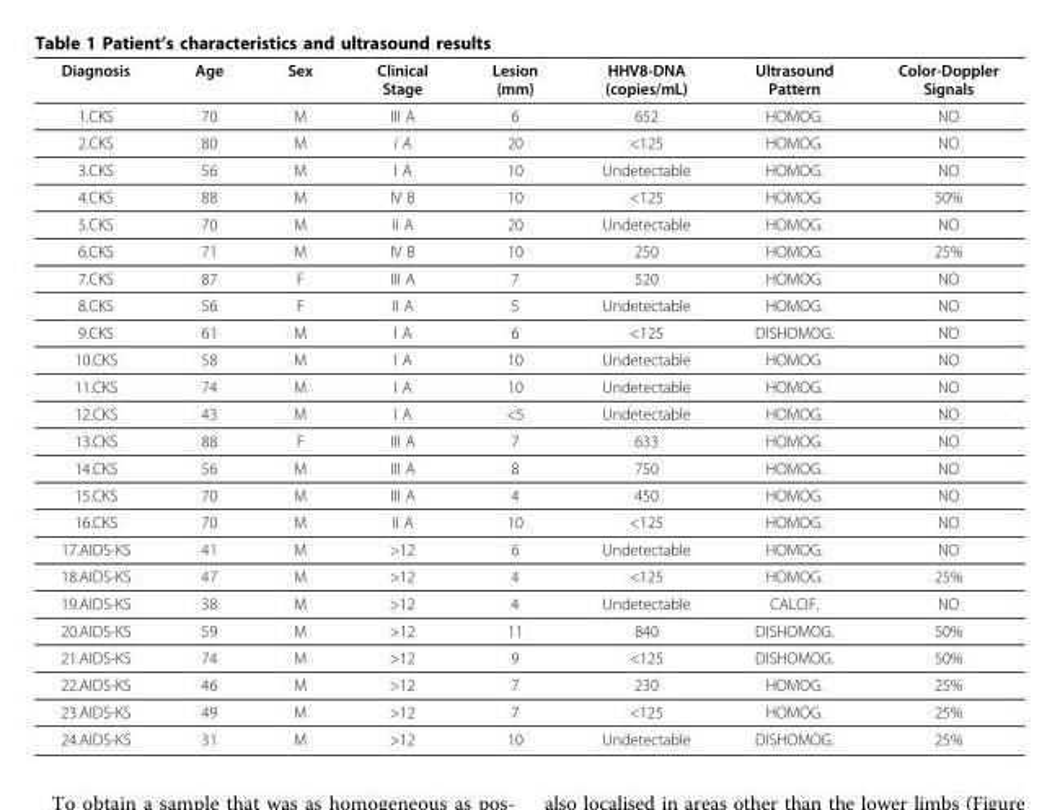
<table><thead><tr><td>Diagnosis</td><td>Age</td><td>Sex</td><td>Clinical Stage</td><td>Lesion (mm)</td><td>HHV8-DNA (copies/mL)</td><td>Ultrasound Pattern</td><td>Color-Doppler Signals</td></tr></thead><tbody><tr><td>1.CKS</td><td>70</td><td>M</td><td>III A</td><td>6</td><td>652</td><td>HOMOG.</td><td>NO</td></tr><tr><td>2.CKS</td><td>80</td><td>M</td><td>I A</td><td>20</td><td>&lt;125</td><td>HOMOG.</td><td>NO</td></tr><tr><td>3.CKS</td><td>56</td><td>M</td><td>I A</td><td>10</td><td>Undetectable</td><td>HOMOG.</td><td>NO</td></tr><tr><td>4.CKS</td><td>88</td><td>M</td><td>IV B</td><td>10</td><td>&lt;125</td><td>HOMOG.</td><td>50%</td></tr><tr><td>5.CKS</td><td>70</td><td>M</td><td>II A</td><td>20</td><td>Undetectable</td><td>HOMOG.</td><td>NO</td></tr><tr><td>6.CKS</td><td>71</td><td>M</td><td>IV B</td><td>10</td><td>250</td><td>HOMOG.</td><td>25%</td></tr><tr><td>7.CKS</td><td>87</td><td>F</td><td>III A</td><td>7</td><td>520</td><td>HOMOG.</td><td>NO</td></tr><tr><td>8.CKS</td><td>56</td><td>F</td><td>II A</td><td>5</td><td>Undetectable</td><td>HOMOG.</td><td>NO</td></tr><tr><td>9.CKS</td><td>61</td><td>M</td><td>I A</td><td>6</td><td>&lt;125</td><td>DISHOMOG.</td><td>NO</td></tr><tr><td>10.CKS</td><td>58</td><td>M</td><td>I A</td><td>10</td><td>Undetectable</td><td>HOMOG.</td><td>NO</td></tr><tr><td>11.CKS</td><td>74</td><td>M</td><td>I A</td><td>10</td><td>Undetectable</td><td>HOMOG.</td><td>NO</td></tr><tr><td>12.CKS</td><td>43</td><td>M</td><td>I A</td><td>&lt;5</td><td>Undetectable</td><td>HOMOG.</td><td>NO</td></tr><tr><td>13.CKS</td><td>88</td><td>F</td><td>III A</td><td>7</td><td>633</td><td>HOMOG.</td><td>NO</td></tr><tr><td>14.CKS</td><td>56</td><td>M</td><td>III A</td><td>8</td><td>750</td><td>HOMOG.</td><td>NO</td></tr><tr><td>15.CKS</td><td>70</td><td>M</td><td>III A</td><td>4</td><td>450</td><td>HOMOG.</td><td>NO</td></tr><tr><td>16.CKS</td><td>70</td><td>M</td><td>II A</td><td>10</td><td>&lt;125</td><td>HOMOG.</td><td>NO</td></tr><tr><td>17.AIDS-KS</td><td>41</td><td>M</td><td>&gt;12</td><td>6</td><td>Undetectable</td><td>HOMOG.</td><td>NO</td></tr><tr><td>18.AIDS-KS</td><td>47</td><td>M</td><td>&gt;12</td><td>4</td><td>&lt;125</td><td>HOMOG.</td><td>25%</td></tr><tr><td>19.AIDS-KS</td><td>38</td><td>M</td><td>&gt;12</td><td>4</td><td>Undetectable</td><td>CALCIF.</td><td>NO</td></tr><tr><td>20.AIDS-KS</td><td>59</td><td>M</td><td>&gt;12</td><td>11</td><td>840</td><td>DISHOMOG.</td><td>50%</td></tr><tr><td>21.AIDS-KS</td><td>74</td><td>M</td><td>&gt;12</td><td>9</td><td>&lt;125</td><td>DISHOMOG.</td><td>50%</td></tr><tr><td>22.AIDS-KS</td><td>46</td><td>M</td><td>&gt;12</td><td>7</td><td>230</td><td>HOMOG.</td><td>25%</td></tr><tr><td>23.AIDS-KS</td><td>49</td><td>M</td><td>&gt;12</td><td>7</td><td>&lt;125</td><td>HOMOG.</td><td>25%</td></tr><tr><td>24.AIDS-KS</td><td>31</td><td>M</td><td>&gt;12</td><td>10</td><td>Undetectable</td><td>DISHOMOG.</td><td>25%</td></tr></tbody></table>